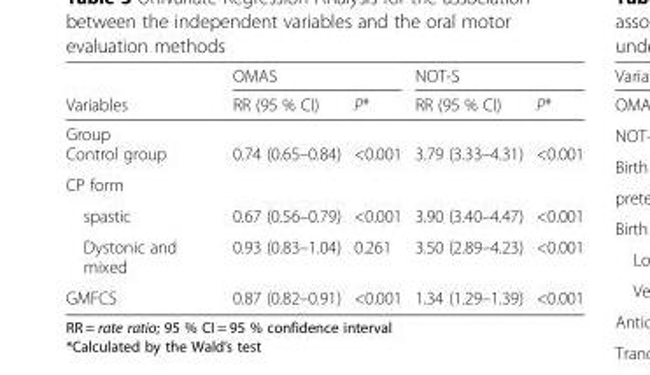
<table><thead><tr><td rowspan="2">Variables</td><td colspan="2">OMAS</td><td colspan="2">NOT-S</td></tr><tr><td>RR (95 % CI)</td><td>P*</td><td>RR (95 % CI)</td><td>P*</td></tr></thead><tbody><tr><td>Group Control group</td><td>0.74 (0.65–0.84)</td><td>&lt;0.001</td><td>3.79 (3.33–4.31)</td><td>&lt;0.001</td></tr><tr><td colspan="5">CP form</td></tr><tr><td>spastic</td><td>0.67 (0.56–0.79)</td><td>&lt;0.001</td><td>3.90 (3.40–4.47)</td><td>&lt;0.001</td></tr><tr><td>Dystonic and mixed</td><td>0.93 (0.83–1.04)</td><td>0.261</td><td>3.50 (2.89–4.23)</td><td>&lt;0.001</td></tr><tr><td>GMFCS</td><td>0.87 (0.82–0.91)</td><td>&lt;0.001</td><td>1.34 (1.29–1.39)</td><td>&lt;0.001</td></tr></tbody></table>